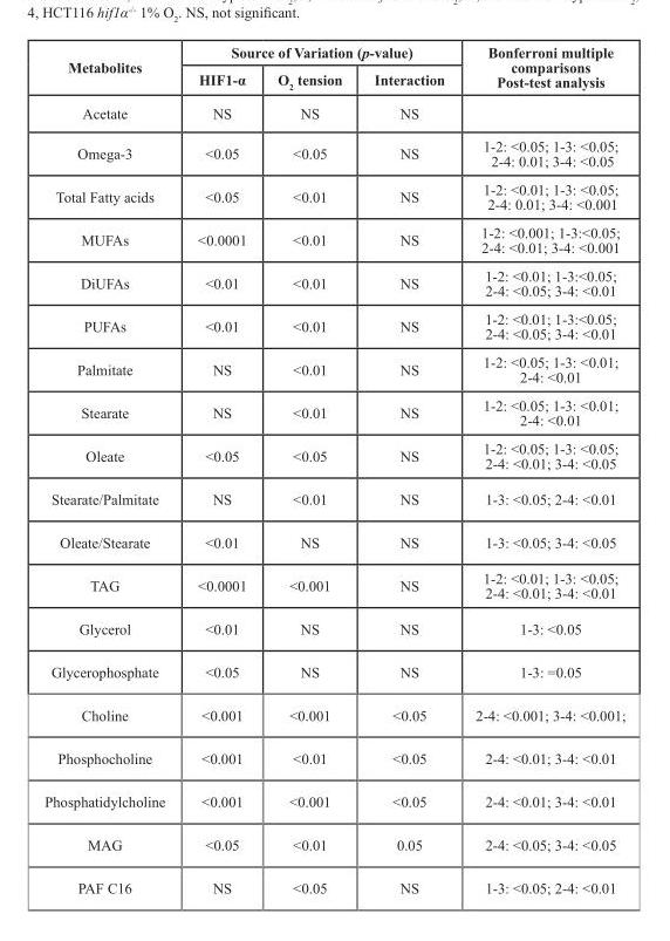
<table><thead><tr><td rowspan="2">Metabolites</td><td colspan="3">Source of Variation (p-value)</td><td rowspan="2">Bonferroni multiple comparisons Post-test analysis</td></tr><tr><td>HIF1-α</td><td>O<sub>2</sub> tension</td><td>Interaction</td></tr></thead><tbody><tr><td>Acetate</td><td>NS</td><td>NS</td><td>NS</td><td></td></tr><tr><td>Omega-3</td><td>&lt;0.05</td><td>&lt;0.05</td><td>NS</td><td>1-2: &lt;0.05; 1-3: &lt;0.05; 2-4: 0.01; 3-4: &lt;0.05</td></tr><tr><td>Total Fatty acids</td><td>&lt;0.05</td><td>&lt;0.01</td><td>NS</td><td>1-2: &lt;0.01; 1-3: &lt;0.05; 2-4: 0.01; 3-4: &lt;0.001</td></tr><tr><td>MUFAs</td><td>&lt;0.0001</td><td>&lt;0.01</td><td>NS</td><td>1-2: &lt;0.001; 1-3:&lt;0.05; 2-4: &lt;0.01; 3-4: &lt;0.001</td></tr><tr><td>DiUFAs</td><td>&lt;0.01</td><td>&lt;0.01</td><td>NS</td><td>1-2: &lt;0.01; 1-3:&lt;0.05; 2-4: &lt;0.05; 3-4: &lt;0.01</td></tr><tr><td>PUFAs</td><td>&lt;0.01</td><td>&lt;0.01</td><td>NS</td><td>1-2: &lt;0.01; 1-3:&lt;0.05; 2-4: &lt;0.05; 3-4: &lt;0.01</td></tr><tr><td>Palmitate</td><td>NS</td><td>&lt;0.01</td><td>NS</td><td>1-2: &lt;0.05; 1-3: &lt;0.01; 2-4: &lt;0.01</td></tr><tr><td>Stearate</td><td>NS</td><td>&lt;0.01</td><td>NS</td><td>1-2: &lt;0.05; 1-3: &lt;0.01; 2-4: &lt;0.01</td></tr><tr><td>Oleate</td><td>&lt;0.05</td><td>&lt;0.05</td><td>NS</td><td>1-2: &lt;0.05; 1-3: &lt;0.05; 2-4: &lt;0.01; 3-4: &lt;0.05</td></tr><tr><td>Stearate/Palmitate</td><td>NS</td><td>&lt;0.01</td><td>NS</td><td>1-3: &lt;0.05; 2-4: &lt;0.01</td></tr><tr><td>Oleate/Stearate</td><td>&lt;0.01</td><td>NS</td><td>NS</td><td>1-3: &lt;0.05; 3-4: &lt;0.05</td></tr><tr><td>TAG</td><td>&lt;0.0001</td><td>&lt;0.001</td><td>NS</td><td>1-2: &lt;0.01; 1-3: &lt;0.05; 2-4: &lt;0.01; 3-4: &lt;0.01</td></tr><tr><td>Glycerol</td><td>&lt;0.01</td><td>NS</td><td>NS</td><td>1-3: &lt;0.05</td></tr><tr><td>Glycerophosphate</td><td>&lt;0.05</td><td>NS</td><td>NS</td><td>1-3: =0.05</td></tr><tr><td>Choline</td><td>&lt;0.001</td><td>&lt;0.001</td><td>&lt;0.05</td><td>2-4: &lt;0.001; 3-4: &lt;0.001;</td></tr><tr><td>Phosphocholine</td><td>&lt;0.001</td><td>&lt;0.01</td><td>&lt;0.05</td><td>2-4: &lt;0.01; 3-4: &lt;0.01</td></tr><tr><td>Phosphatidylcholine</td><td>&lt;0.001</td><td>&lt;0.001</td><td>&lt;0.05</td><td>2-4: &lt;0.01; 3-4: &lt;0.01</td></tr><tr><td>MAG</td><td>&lt;0.05</td><td>&lt;0.01</td><td>0.05</td><td>2-4: &lt;0.05; 3-4: &lt;0.05</td></tr><tr><td>PAF C16</td><td>NS</td><td>&lt;0.05</td><td>NS</td><td>1-3: &lt;0.05; 2-4: &lt;0.01</td></tr></tbody></table>